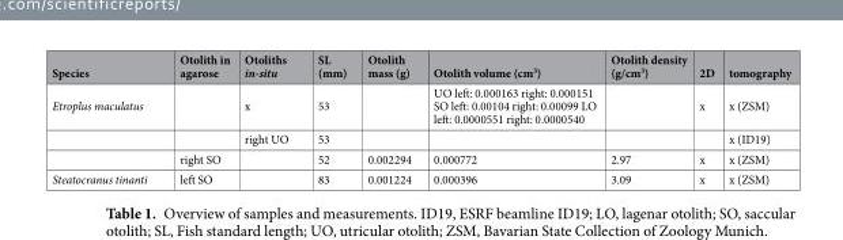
<table><thead><tr><td>Species</td><td>Otolith in agarose</td><td>Otoliths in-situ</td><td>SL (mm)</td><td>Otolith mass (g)</td><td>Otolith volume (cm<sup>3</sup>)</td><td>Otolith density (g/cm<sup>3</sup>)</td><td>2D</td><td>tomography</td></tr></thead><tbody><tr><td rowspan="3">Etroplus maculatus</td><td></td><td>x</td><td>53</td><td></td><td>UO left: 0.000163 right: 0.000151 SO left: 0.00104 right: 0.00099 LO left: 0.0000551 right: 0.0000540</td><td></td><td>x</td><td>x (ZSM)</td></tr><tr><td></td><td>right UO</td><td>53</td><td></td><td></td><td></td><td></td><td>x (ID19)</td></tr><tr><td>right SO</td><td></td><td>52</td><td>0.002294</td><td>0.000772</td><td>2.97</td><td>x</td><td>x (ZSM)</td></tr><tr><td>Steatocranus tinanti</td><td>left SO</td><td></td><td>83</td><td>0.001224</td><td>0.000396</td><td>3.09</td><td>x</td><td>x (ZSM)</td></tr></tbody></table>